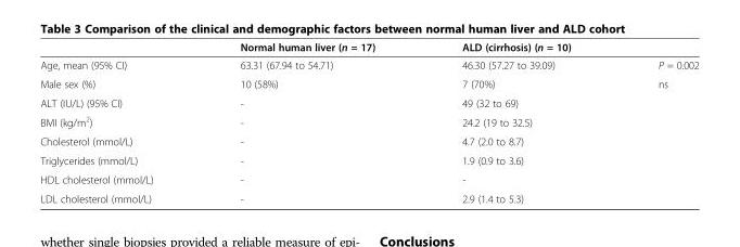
<table><thead><tr><td></td><td>Normal human liver (n = 17)</td><td>ALD (cirrhosis) (n = 10)</td><td></td></tr></thead><tbody><tr><td>Age, mean (95% CI)</td><td>63.31 (67.94 to 54.71)</td><td>46.30 (57.27 to 39.09)</td><td>P = 0.002</td></tr><tr><td>Male sex (%)</td><td>10 (58%)</td><td>7 (70%)</td><td>ns</td></tr><tr><td>ALT (IU/L) (95% CI)</td><td>-</td><td>49 (32 to 69)</td><td></td></tr><tr><td>BMI (kg/m<sup>2</sup>)</td><td>-</td><td>24.2 (19 to 32.5)</td><td></td></tr><tr><td>Cholesterol (mmol/L)</td><td>-</td><td>4.7 (2.0 to 8.7)</td><td></td></tr><tr><td>Triglycerides (mmol/L)</td><td>-</td><td>1.9 (0.9 to 3.6)</td><td></td></tr><tr><td>HDL cholesterol (mmol/L)</td><td>-</td><td>-</td><td></td></tr><tr><td>LDL cholesterol (mmol/L)</td><td>-</td><td>2.9 (1.4 to 5.3)</td><td></td></tr></tbody></table>